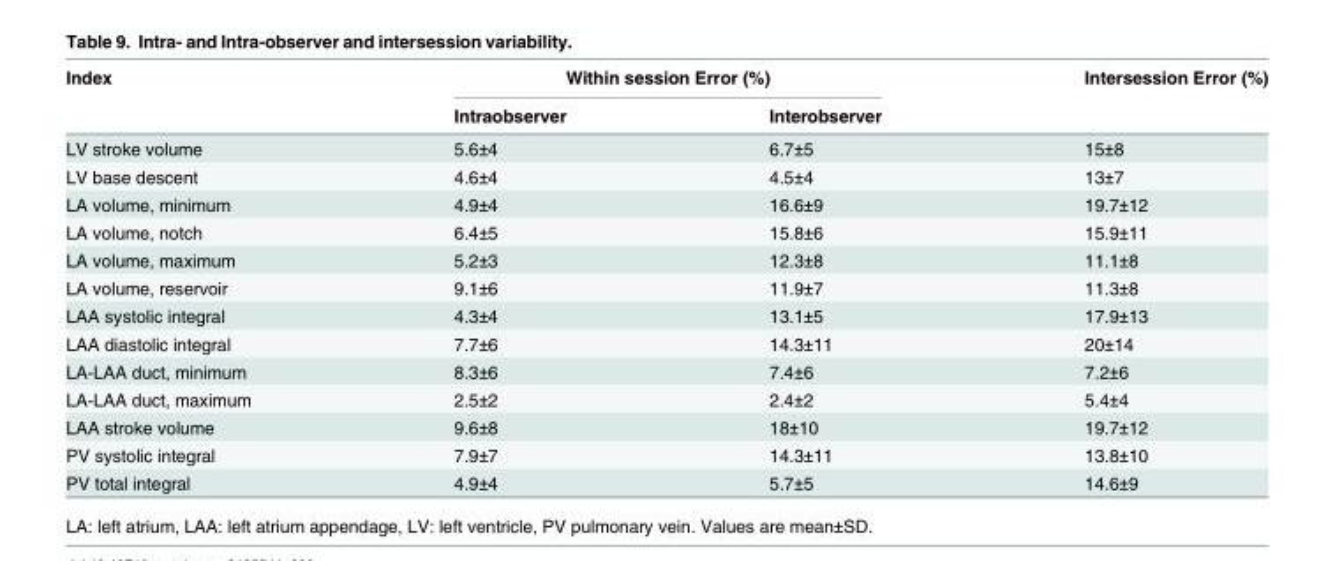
<table><thead><tr><td rowspan="2">Index</td><td colspan="2">Within session Error (%)</td><td rowspan="2">Intersession Error (%)</td></tr><tr><td>Intraobserver</td><td>Interobserver</td></tr></thead><tbody><tr><td>LV stroke volume</td><td>5.6±4</td><td>6.7±5</td><td>15±8</td></tr><tr><td>LV base descent</td><td>4.6±4</td><td>4.5±4</td><td>13±7</td></tr><tr><td>LA volume, minimum</td><td>4.9±4</td><td>16.6±9</td><td>19.7±12</td></tr><tr><td>LA volume, notch</td><td>6.4±5</td><td>15.8±6</td><td>15.9±11</td></tr><tr><td>LA volume, maximum</td><td>5.2±3</td><td>12.3±8</td><td>11.1±8</td></tr><tr><td>LA volume, reservoir</td><td>9.1±6</td><td>11.9±7</td><td>11.3±8</td></tr><tr><td>LAA systolic integral</td><td>4.3±4</td><td>13.1±5</td><td>17.9±13</td></tr><tr><td>LAA diastolic integral</td><td>7.7±6</td><td>14.3±11</td><td>20±14</td></tr><tr><td>LA-LAA duct, minimum</td><td>8.3±6</td><td>7.4±6</td><td>7.2±6</td></tr><tr><td>LA-LAA duct, maximum</td><td>2.5±2</td><td>2.4±2</td><td>5.4±4</td></tr><tr><td>LAA stroke volume</td><td>9.6±8</td><td>18±10</td><td>19.7±12</td></tr><tr><td>PV systolic integral</td><td>7.9±7</td><td>14.3±11</td><td>13.8±10</td></tr><tr><td>PV total integral</td><td>4.9±4</td><td>5.7±5</td><td>14.6±9</td></tr></tbody></table>